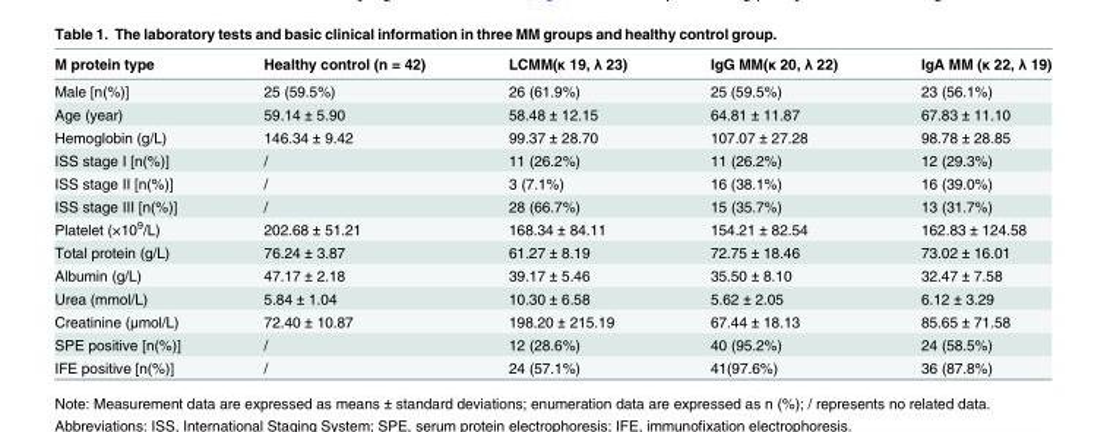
<table><thead><tr><td>M protein type</td><td>Healthy control (n = 42)</td><td>LCMM(κ 19, λ 23)</td><td>IgG MM(κ 20, λ 22)</td><td>IgA MM (κ 22, λ 19)</td></tr></thead><tbody><tr><td>Male [n(%)]</td><td>25 (59.5%)</td><td>26 (61.9%)</td><td>25 (59.5%)</td><td>23 (56.1%)</td></tr><tr><td>Age (year)</td><td>59.14 ± 5.90</td><td>58.48 ± 12.15</td><td>64.81 ± 11.87</td><td>67.83 ± 11.10</td></tr><tr><td>Hemoglobin (g/L)</td><td>146.34 ± 9.42</td><td>99.37 ± 28.70</td><td>107.07 ± 27.28</td><td>98.78 ± 28.85</td></tr><tr><td>ISS stage I [n(%)]</td><td>/</td><td>11 (26.2%)</td><td>11 (26.2%)</td><td>12 (29.3%)</td></tr><tr><td>ISS stage II [n(%)]</td><td>/</td><td>3 (7.1%)</td><td>16 (38.1%)</td><td>16 (39.0%)</td></tr><tr><td>ISS stage III [n(%)]</td><td>/</td><td>28 (66.7%)</td><td>15 (35.7%)</td><td>13 (31.7%)</td></tr><tr><td>Platelet (×10<sup>9</sup>/L)</td><td>202.68 ± 51.21</td><td>168.34 ± 84.11</td><td>154.21 ± 82.54</td><td>162.83 ± 124.58</td></tr><tr><td>Total protein (g/L)</td><td>76.24 ± 3.87</td><td>61.27 ± 8.19</td><td>72.75 ± 18.46</td><td>73.02 ± 16.01</td></tr><tr><td>Albumin (g/L)</td><td>47.17 ± 2.18</td><td>39.17 ± 5.46</td><td>35.50 ± 8.10</td><td>32.47 ± 7.58</td></tr><tr><td>Urea (mmol/L)</td><td>5.84 ± 1.04</td><td>10.30 ± 6.58</td><td>5.62 ± 2.05</td><td>6.12 ± 3.29</td></tr><tr><td>Creatinine (μmol/L)</td><td>72.40 ± 10.87</td><td>198.20 ± 215.19</td><td>67.44 ± 18.13</td><td>85.65 ± 71.58</td></tr><tr><td>SPE positive [n(%)]</td><td>/</td><td>12 (28.6%)</td><td>40 (95.2%)</td><td>24 (58.5%)</td></tr><tr><td>IFE positive [n(%)]</td><td>/</td><td>24 (57.1%)</td><td>41(97.6%)</td><td>36 (87.8%)</td></tr></tbody></table>